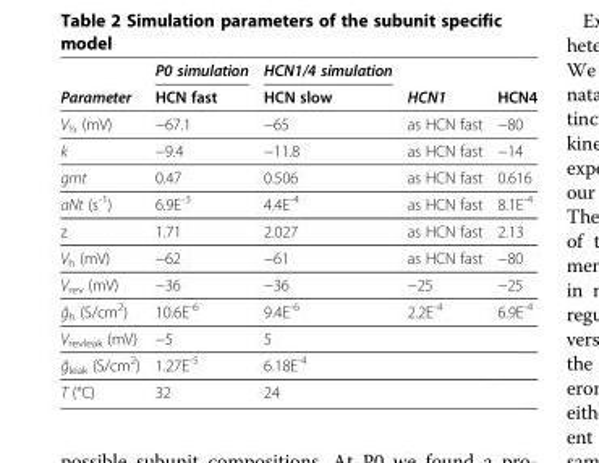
<table><thead><tr><td></td><td>P0 simulation</td><td>HCN1/4 simulation</td><td></td><td></td></tr></thead><tbody><tr><td>Parameter</td><td>HCN fast</td><td>HCN slow</td><td>HCN1</td><td>HCN4</td></tr><tr><td>V<sub>½</sub> (mV)</td><td>−67.1</td><td>−65</td><td>as HCN fast</td><td>−80</td></tr><tr><td>k</td><td>−9.4</td><td>−11.8</td><td>as HCN fast</td><td>−14</td></tr><tr><td>gmt</td><td>0.47</td><td>0.506</td><td>as HCN fast</td><td>0.616</td></tr><tr><td>aNt (s<sup>-1</sup>)</td><td>6.9E<sup>-3</sup></td><td>4.4E<sup>-4</sup></td><td>as HCN fast</td><td>8.1E<sup>-4</sup></td></tr><tr><td>z</td><td>1.71</td><td>2.027</td><td>as HCN fast</td><td>2.13</td></tr><tr><td>V<sub>h</sub> (mV)</td><td>−62</td><td>−61</td><td>as HCN fast</td><td>−80</td></tr><tr><td>V<sub>rev</sub> (mV)</td><td>−36</td><td>−36</td><td>−25</td><td>−25</td></tr><tr><td>ĝ<sub>h</sub> (S/cm<sup>2</sup>)</td><td>10.6E<sup>-6</sup></td><td>9.4E<sup>-6</sup></td><td>2.2E<sup>-4</sup></td><td>6.9E<sup>-4</sup></td></tr><tr><td>V<sub>revleak</sub> (mV)</td><td>−5</td><td>5</td><td></td><td></td></tr><tr><td>ĝ<sub>leak</sub> (S/cm<sup>2</sup>)</td><td>1.27E<sup>-5</sup></td><td>6.18E<sup>-4</sup></td><td></td><td></td></tr><tr><td>T (°C)</td><td>32</td><td>24</td><td></td><td></td></tr></tbody></table>